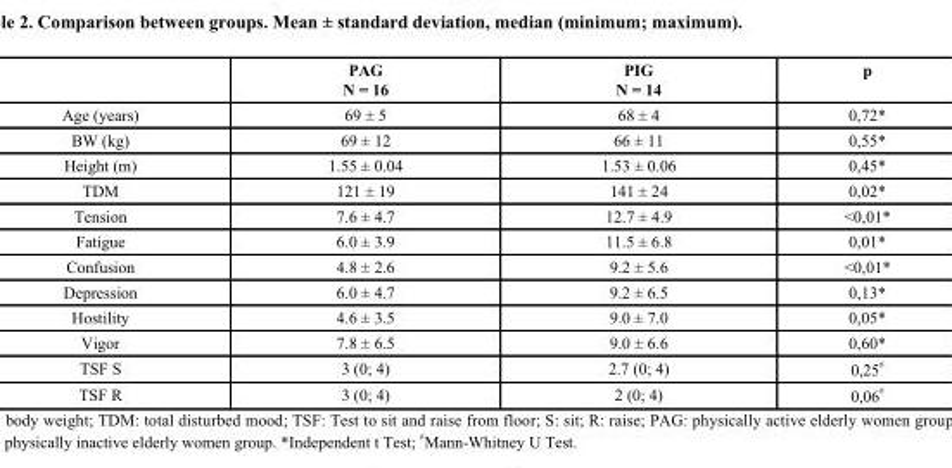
<table><thead><tr><td></td><td>PAG N = 16</td><td>PIG N = 14</td><td>p</td></tr></thead><tbody><tr><td>Age (years)</td><td>69 ± 5</td><td>68 ± 4</td><td>0,72*</td></tr><tr><td>BW (kg)</td><td>69 ± 12</td><td>66 ± 11</td><td>0,55*</td></tr><tr><td>Height (m)</td><td>1.55 ± 0.04</td><td>1.53 ± 0.06</td><td>0,45*</td></tr><tr><td>TDM</td><td>121 ± 19</td><td>141 ± 24</td><td>0,02*</td></tr><tr><td>Tension</td><td>7.6 ± 4.7</td><td>12.7 ± 4.9</td><td>&lt;0,01*</td></tr><tr><td>Fatigue</td><td>6.0 ± 3.9</td><td>11.5 ± 6.8</td><td>0,01*</td></tr><tr><td>Confusion</td><td>4.8 ± 2.6</td><td>9.2 ± 5.6</td><td>&lt;0,01*</td></tr><tr><td>Depression</td><td>6.0 ± 4.7</td><td>9.2 ± 6.5</td><td>0,13*</td></tr><tr><td>Hostility</td><td>4.6 ± 3.5</td><td>9.0 ± 7.0</td><td>0,05*</td></tr><tr><td>Vigor</td><td>7.8 ± 6.5</td><td>9.0 ± 6.6</td><td>0,60*</td></tr><tr><td>TSF S</td><td>3 (0; 4)</td><td>2.7 (0; 4)</td><td>0,25 <sup>#</sup></td></tr><tr><td>TSF R</td><td>3 (0; 4)</td><td>2 (0; 4)</td><td>0,06 <sup>#</sup></td></tr></tbody></table>